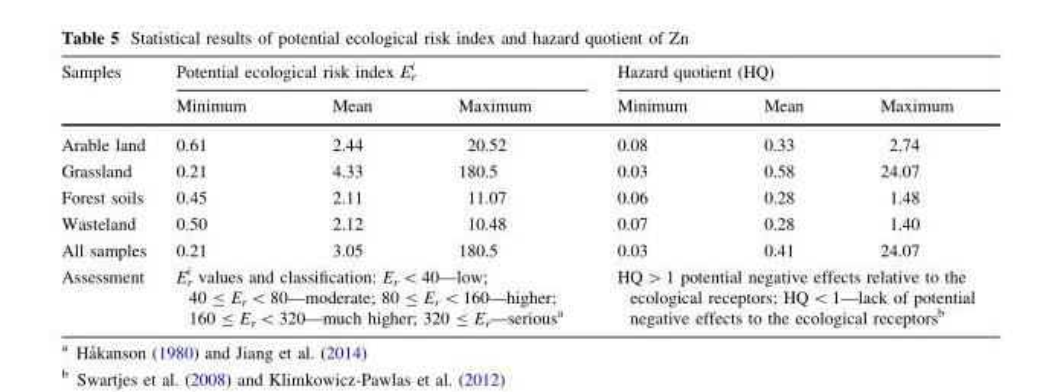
<table><thead><tr><td rowspan="2">Samples</td><td colspan="3">Potential ecological risk index E<sub>r</sub> <sup>i</sup></td><td colspan="3">Hazard quotient (HQ)</td></tr><tr><td>Minimum</td><td>Mean</td><td>Maximum</td><td>Minimum</td><td>Mean</td><td>Maximum</td></tr></thead><tbody><tr><td>Arable land</td><td>0.61</td><td>2.44</td><td>20.52</td><td>0.08</td><td>0.33</td><td>2.74</td></tr><tr><td>Grassland</td><td>0.21</td><td>4.33</td><td>180.5</td><td>0.03</td><td>0.58</td><td>24.07</td></tr><tr><td>Forest soils</td><td>0.45</td><td>2.11</td><td>11.07</td><td>0.06</td><td>0.28</td><td>1.48</td></tr><tr><td>Wasteland</td><td>0.50</td><td>2.12</td><td>10.48</td><td>0.07</td><td>0.28</td><td>1.40</td></tr><tr><td>All samples</td><td>0.21</td><td>3.05</td><td>180.5</td><td>0.03</td><td>0.41</td><td>24.07</td></tr><tr><td>Assessment</td><td colspan="3">E<sub>r</sub> <sup>i</sup> values and classification: E<sub>r</sub> &lt; 40—low; 40 ≤ E<sub>r</sub> &lt; 80—moderate; 80 ≤ E<sub>r</sub> &lt; 160—higher; 160 ≤ E<sub>r</sub> &lt; 320—much higher; 320 ≤ E<sub>r</sub>—serious<sup>a</sup></td><td colspan="3">HQ &gt; 1 potential negative effects relative to the ecological receptors; HQ &lt; 1—lack of potential negative effects to the ecological receptors<sup>b</sup></td></tr></tbody></table>